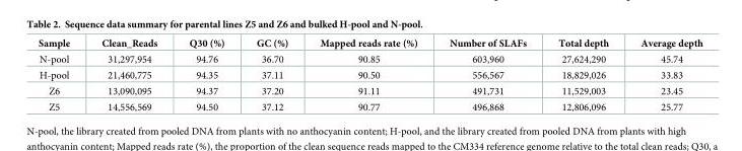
<table><thead><tr><td>Sample</td><td>Clean_Reads</td><td>Q30 (%)</td><td>GC (%)</td><td>Mapped reads rate (%)</td><td>Number of SLAFs</td><td>Total depth</td><td>Average depth</td></tr></thead><tbody><tr><td>N-pool</td><td>31,297,954</td><td>94.76</td><td>36.70</td><td>90.85</td><td>603,960</td><td>27,624,290</td><td>45.74</td></tr><tr><td>H-pool</td><td>21,460,775</td><td>94.35</td><td>37.11</td><td>90.50</td><td>556,567</td><td>18,829,026</td><td>33.83</td></tr><tr><td>Z6</td><td>13,090,095</td><td>94.37</td><td>37.20</td><td>91.11</td><td>491,731</td><td>11,529,003</td><td>23.45</td></tr><tr><td>Z5</td><td>14,556,569</td><td>94.50</td><td>37.12</td><td>90.77</td><td>496,868</td><td>12,806,096</td><td>25.77</td></tr></tbody></table>